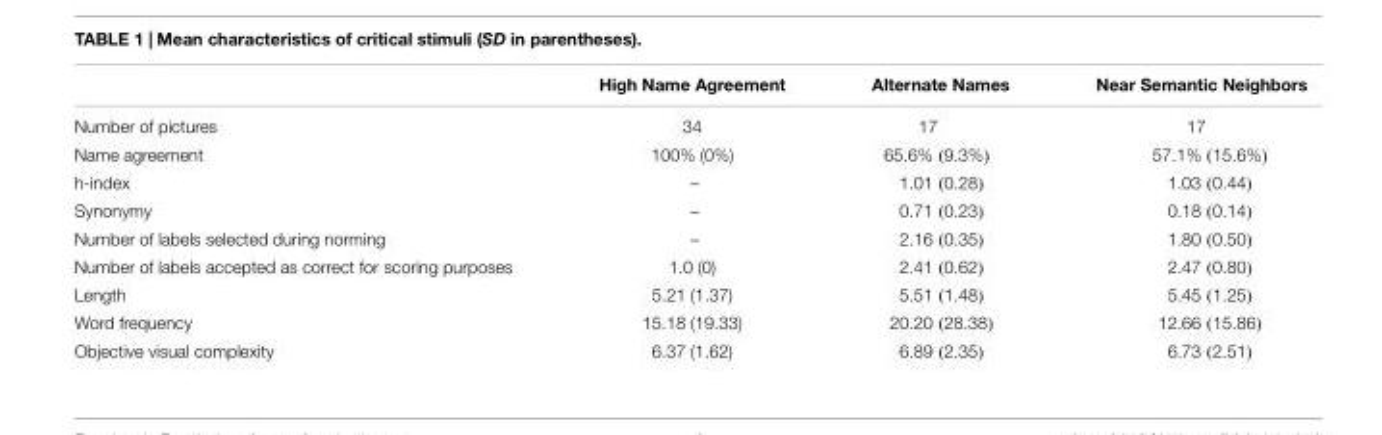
<table><thead><tr><td></td><td>High Name Agreement</td><td>Alternate Names</td><td>Near Semantic Neighbors</td></tr></thead><tbody><tr><td>Number of pictures</td><td>34</td><td>17</td><td>17</td></tr><tr><td>Name agreement</td><td>100% (0%)</td><td>65.6% (9.3%)</td><td>57.1% (15.6%)</td></tr><tr><td>h-index</td><td>–</td><td>1.01 (0.28)</td><td>1.03 (0.44)</td></tr><tr><td>Synonymy</td><td>–</td><td>0.71 (0.23)</td><td>0.18 (0.14)</td></tr><tr><td>Number of labels selected during norming</td><td>–</td><td>2.16 (0.35)</td><td>1.80 (0.50)</td></tr><tr><td>Number of labels accepted as correct for scoring purposes</td><td>1.0 (0)</td><td>2.41 (0.62)</td><td>2.47 (0.80)</td></tr><tr><td>Length</td><td>5.21 (1.37)</td><td>5.51 (1.48)</td><td>5.45 (1.25)</td></tr><tr><td>Word frequency</td><td>15.18 (19.33)</td><td>20.20 (28.38)</td><td>12.66 (15.86)</td></tr><tr><td>Objective visual complexity</td><td>6.37 (1.62)</td><td>6.89 (2.35)</td><td>6.73 (2.51)</td></tr></tbody></table>